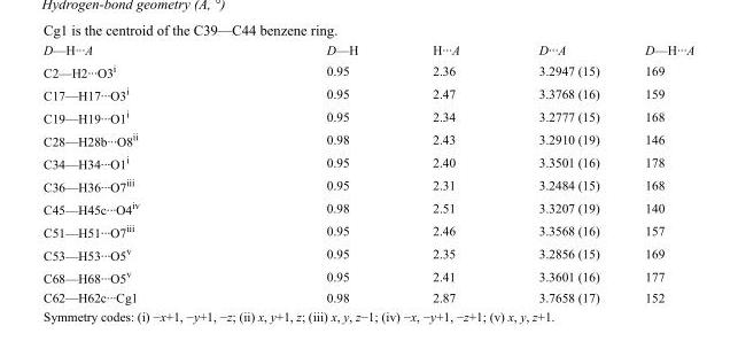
<table><tbody><tr><td>D—H···A</td><td>D—H</td><td>H···A</td><td>D···A</td><td>D—H···A</td></tr><tr><td>C2—H2···O3<sup>i</sup></td><td>0.95</td><td>2.36</td><td>3.2947 (15)</td><td>169</td></tr><tr><td>C17—H17···O3<sup>i</sup></td><td>0.95</td><td>2.47</td><td>3.3768 (16)</td><td>159</td></tr><tr><td>C19—H19···O1<sup>i</sup></td><td>0.95</td><td>2.34</td><td>3.2777 (15)</td><td>168</td></tr><tr><td>C28—H28b···O8<sup>ii</sup></td><td>0.98</td><td>2.43</td><td>3.2910 (19)</td><td>146</td></tr><tr><td>C34—H34···O1<sup>i</sup></td><td>0.95</td><td>2.40</td><td>3.3501 (16)</td><td>178</td></tr><tr><td>C36—H36···O7<sup>iii</sup></td><td>0.95</td><td>2.31</td><td>3.2484 (15)</td><td>168</td></tr><tr><td>C45—H45c···O4<sup>iv</sup></td><td>0.98</td><td>2.51</td><td>3.3207 (19)</td><td>140</td></tr><tr><td>C51—H51···O7<sup>iii</sup></td><td>0.95</td><td>2.46</td><td>3.3568 (16)</td><td>157</td></tr><tr><td>C53—H53···O5<sup>v</sup></td><td>0.95</td><td>2.35</td><td>3.2856 (15)</td><td>169</td></tr><tr><td>C68—H68···O5<sup>v</sup></td><td>0.95</td><td>2.41</td><td>3.3601 (16)</td><td>177</td></tr><tr><td>C62—H62c···Cg1</td><td>0.98</td><td>2.87</td><td>3.7658 (17)</td><td>152</td></tr></tbody></table>